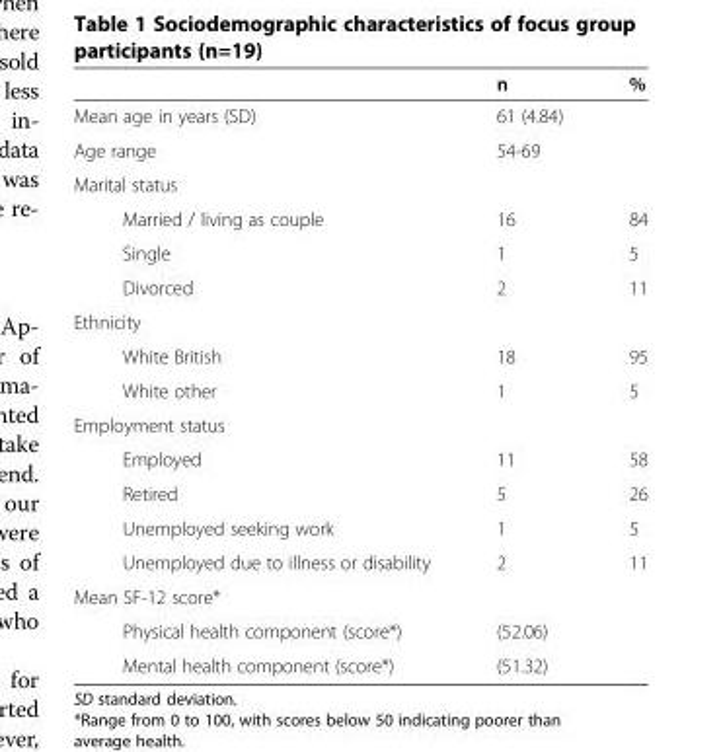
<table><thead><tr><td></td><td>n</td><td>%</td></tr></thead><tbody><tr><td>Mean age in years (SD)</td><td>61 (4.84)</td><td></td></tr><tr><td>Age range</td><td>54-69</td><td></td></tr><tr><td colspan="3">Marital status</td></tr><tr><td>Married / living as couple</td><td>16</td><td>84</td></tr><tr><td>Single</td><td>1</td><td>5</td></tr><tr><td>Divorced</td><td>2</td><td>11</td></tr><tr><td colspan="3">Ethnicity</td></tr><tr><td>White British</td><td>18</td><td>95</td></tr><tr><td>White other</td><td>1</td><td>5</td></tr><tr><td colspan="3">Employment status</td></tr><tr><td>Employed</td><td>11</td><td>58</td></tr><tr><td>Retired</td><td>5</td><td>26</td></tr><tr><td>Unemployed seeking work</td><td>1</td><td>5</td></tr><tr><td>Unemployed due to illness or disability</td><td>2</td><td>11</td></tr><tr><td colspan="3">Mean SF-12 score*</td></tr><tr><td>Physical health component (score*)</td><td>(52.06)</td><td></td></tr><tr><td>Mental health component (score*)</td><td>(51.32)</td><td></td></tr></tbody></table>